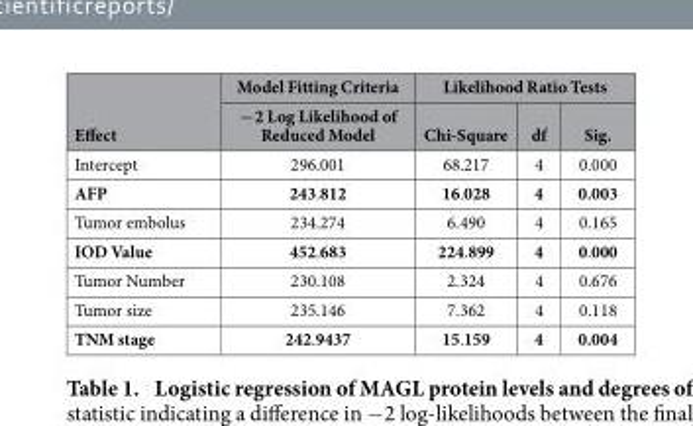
<table><thead><tr><td rowspan="2">Effect</td><td rowspan="2">Model Fitting Criteria −2 Log Likelihood of Reduced Model</td><td colspan="3">Likelihood Ratio Tests</td></tr><tr><td>Chi-Square</td><td>df</td><td>Sig.</td></tr></thead><tbody><tr><td>Intercept</td><td>296.001</td><td>68.217</td><td>4</td><td>0.000</td></tr><tr><td>AFP</td><td>243.812</td><td>16.028</td><td>4</td><td>0.003</td></tr><tr><td>Tumor embolus</td><td>234.274</td><td>6.490</td><td>4</td><td>0.165</td></tr><tr><td>IOD Value</td><td>452.683</td><td>224.899</td><td>4</td><td>0.000</td></tr><tr><td>Tumor Number</td><td>230.108</td><td>2.324</td><td>4</td><td>0.676</td></tr><tr><td>Tumor size</td><td>235.146</td><td>7.362</td><td>4</td><td>0.118</td></tr><tr><td>TNM stage</td><td>242.9437</td><td>15.159</td><td>4</td><td>0.004</td></tr></tbody></table>